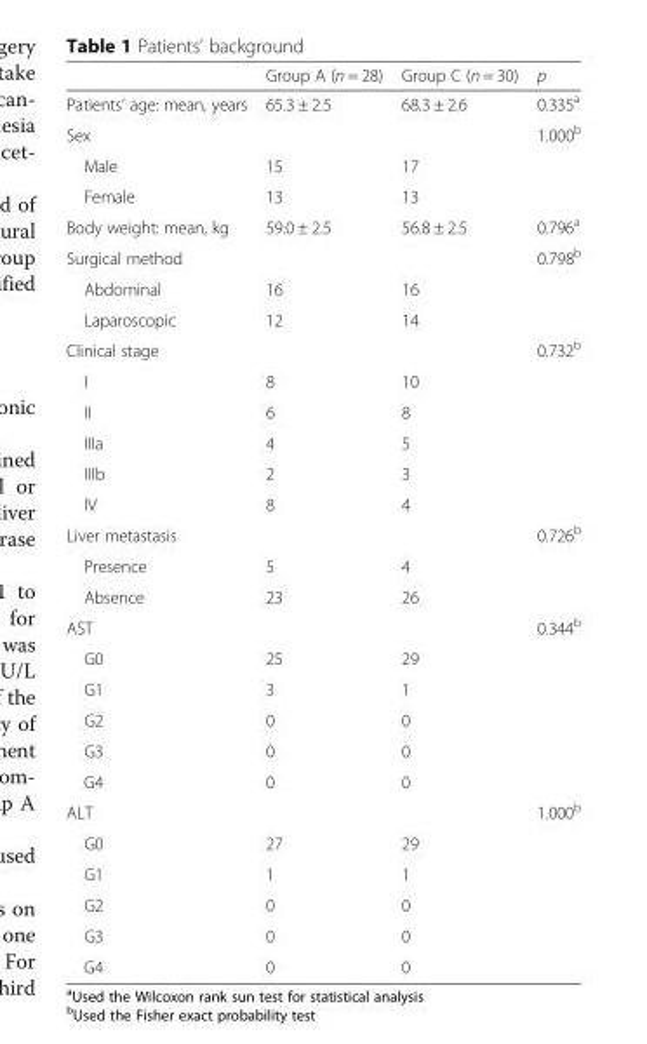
<table><thead><tr><td></td><td>Group A (n = 28)</td><td>Group C (n = 30)</td><td>p</td></tr></thead><tbody><tr><td>Patients’ age: mean, years</td><td>65.3 ± 2.5</td><td>68.3 ± 2.6</td><td>0.335<sup>a</sup></td></tr><tr><td>Sex</td><td></td><td></td><td>1.000<sup>b</sup></td></tr><tr><td>Male</td><td>15</td><td>17</td><td></td></tr><tr><td>Female</td><td>13</td><td>13</td><td></td></tr><tr><td>Body weight: mean, kg</td><td>59.0 ± 2.5</td><td>56.8 ± 2.5</td><td>0.796<sup>a</sup></td></tr><tr><td>Surgical method</td><td></td><td></td><td>0.798<sup>b</sup></td></tr><tr><td>Abdominal</td><td>16</td><td>16</td><td></td></tr><tr><td>Laparoscopic</td><td>12</td><td>14</td><td></td></tr><tr><td>Clinical stage</td><td></td><td></td><td>0.732<sup>b</sup></td></tr><tr><td>I</td><td>8</td><td>10</td><td></td></tr><tr><td>II</td><td>6</td><td>8</td><td></td></tr><tr><td>IIIa</td><td>4</td><td>5</td><td></td></tr><tr><td>IIIb</td><td>2</td><td>3</td><td></td></tr><tr><td>IV</td><td>8</td><td>4</td><td></td></tr><tr><td>Liver metastasis</td><td></td><td></td><td>0.726<sup>b</sup></td></tr><tr><td>Presence</td><td>5</td><td>4</td><td></td></tr><tr><td>Absence</td><td>23</td><td>26</td><td></td></tr><tr><td>AST</td><td></td><td></td><td>0.344<sup>b</sup></td></tr><tr><td>G0</td><td>25</td><td>29</td><td></td></tr><tr><td>G1</td><td>3</td><td>1</td><td></td></tr><tr><td>G2</td><td>0</td><td>0</td><td></td></tr><tr><td>G3</td><td>0</td><td>0</td><td></td></tr><tr><td>G4</td><td>0</td><td>0</td><td></td></tr><tr><td>ALT</td><td></td><td></td><td>1.000<sup>b</sup></td></tr><tr><td>G0</td><td>27</td><td>29</td><td></td></tr><tr><td>G1</td><td>1</td><td>1</td><td></td></tr><tr><td>G2</td><td>0</td><td>0</td><td></td></tr><tr><td>G3</td><td>0</td><td>0</td><td></td></tr><tr><td>G4</td><td>0</td><td>0</td><td></td></tr></tbody></table>